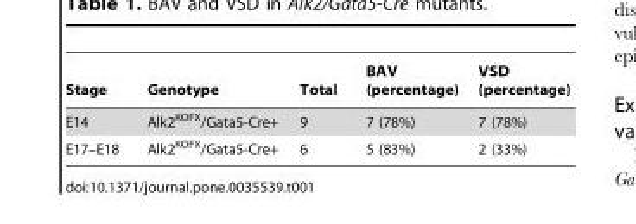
<table><thead><tr><td>Stage</td><td>Genotype</td><td>Total</td><td>BAV (percentage)</td><td>VSD (percentage)</td></tr></thead><tbody><tr><td>E14</td><td>Alk2<sup>KOFX</sup>/Gata5-Cre+</td><td>9</td><td>7 (78%)</td><td>7 (78%)</td></tr><tr><td>E17–E18</td><td>Alk2<sup>KOFX</sup>/Gata5-Cre+</td><td>6</td><td>5 (83%)</td><td>2 (33%)</td></tr></tbody></table>